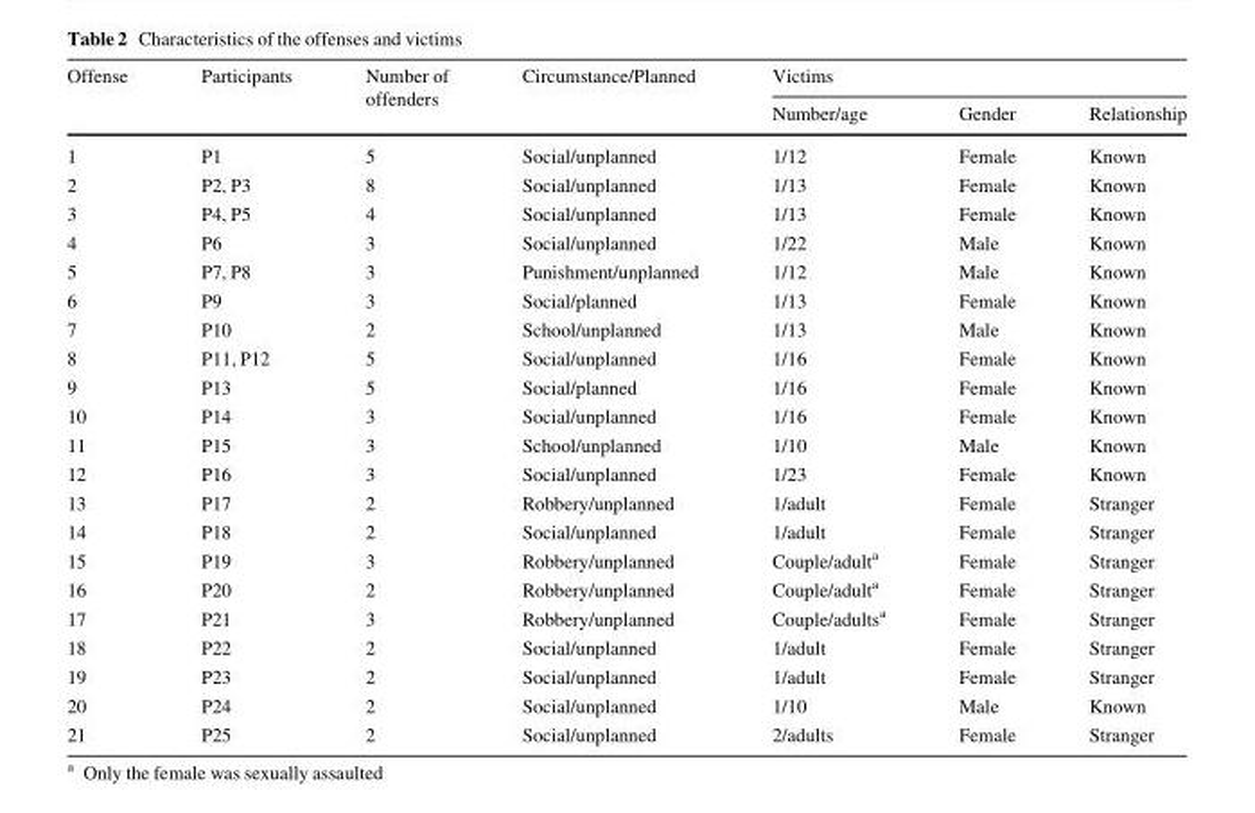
<table><thead><tr><td rowspan="2">Offense</td><td rowspan="2">Participants</td><td rowspan="2">Number of offenders</td><td rowspan="2">Circumstance/Planned</td><td colspan="3">Victims</td></tr><tr><td>Number/age</td><td>Gender</td><td>Relationship</td></tr></thead><tbody><tr><td>1</td><td>P1</td><td>5</td><td>Social/unplanned</td><td>1/12</td><td>Female</td><td>Known</td></tr><tr><td>2</td><td>P2, P3</td><td>8</td><td>Social/unplanned</td><td>1/13</td><td>Female</td><td>Known</td></tr><tr><td>3</td><td>P4, P5</td><td>4</td><td>Social/unplanned</td><td>1/13</td><td>Female</td><td>Known</td></tr><tr><td>4</td><td>P6</td><td>3</td><td>Social/unplanned</td><td>1/22</td><td>Male</td><td>Known</td></tr><tr><td>5</td><td>P7, P8</td><td>3</td><td>Punishment/unplanned</td><td>1/12</td><td>Male</td><td>Known</td></tr><tr><td>6</td><td>P9</td><td>3</td><td>Social/planned</td><td>1/13</td><td>Female</td><td>Known</td></tr><tr><td>7</td><td>P10</td><td>2</td><td>School/unplanned</td><td>1/13</td><td>Male</td><td>Known</td></tr><tr><td>8</td><td>P11, P12</td><td>5</td><td>Social/unplanned</td><td>1/16</td><td>Female</td><td>Known</td></tr><tr><td>9</td><td>P13</td><td>5</td><td>Social/planned</td><td>1/16</td><td>Female</td><td>Known</td></tr><tr><td>10</td><td>P14</td><td>3</td><td>Social/unplanned</td><td>1/16</td><td>Female</td><td>Known</td></tr><tr><td>11</td><td>P15</td><td>3</td><td>School/unplanned</td><td>1/10</td><td>Male</td><td>Known</td></tr><tr><td>12</td><td>P16</td><td>3</td><td>Social/unplanned</td><td>1/23</td><td>Female</td><td>Known</td></tr><tr><td>13</td><td>P17</td><td>2</td><td>Robbery/unplanned</td><td>1/adult</td><td>Female</td><td>Stranger</td></tr><tr><td>14</td><td>P18</td><td>2</td><td>Social/unplanned</td><td>1/adult</td><td>Female</td><td>Stranger</td></tr><tr><td>15</td><td>P19</td><td>3</td><td>Robbery/unplanned</td><td>Couple/adult<sup>a</sup></td><td>Female</td><td>Stranger</td></tr><tr><td>16</td><td>P20</td><td>2</td><td>Robbery/unplanned</td><td>Couple/adult<sup>a</sup></td><td>Female</td><td>Stranger</td></tr><tr><td>17</td><td>P21</td><td>3</td><td>Robbery/unplanned</td><td>Couple/adults<sup>a</sup></td><td>Female</td><td>Stranger</td></tr><tr><td>18</td><td>P22</td><td>2</td><td>Social/unplanned</td><td>1/adult</td><td>Female</td><td>Stranger</td></tr><tr><td>19</td><td>P23</td><td>2</td><td>Social/unplanned</td><td>1/adult</td><td>Female</td><td>Stranger</td></tr><tr><td>20</td><td>P24</td><td>2</td><td>Social/unplanned</td><td>1/10</td><td>Male</td><td>Known</td></tr><tr><td>21</td><td>P25</td><td>2</td><td>Social/unplanned</td><td>2/adults</td><td>Female</td><td>Stranger</td></tr></tbody></table>